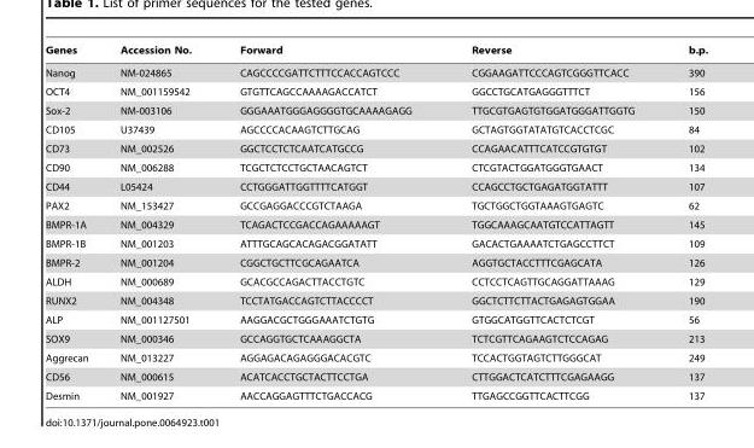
<table><thead><tr><td>Genes</td><td>Accession No.</td><td>Forward</td><td>Reverse</td><td>b.p.</td></tr></thead><tbody><tr><td>Nanog</td><td>NM-024865</td><td>CAGCCCCGATTCTTTCCACCAGTCCC</td><td>CGGAAGATTCCCAGTCGGGTTCACC</td><td>390</td></tr><tr><td>OCT4</td><td>NM_001159542</td><td>GTGTTCAGCCAAAAGACCATCT</td><td>GGCCTGCATGAGGGTTTCT</td><td>156</td></tr><tr><td>Sox-2</td><td>NM-003106</td><td>GGGAAATGGGAGGGGTGCAAAAGAGG</td><td>TTGCGTGAGTGTGGATGGGATTGGTG</td><td>150</td></tr><tr><td>CD105</td><td>U37439</td><td>AGCCCCACAAGTCTTGCAG</td><td>GCTAGTGGTATATGTCACCTCGC</td><td>84</td></tr><tr><td>CD73</td><td>NM_002526</td><td>GGCTCCTCTCAATCATGCCG</td><td>CCAGAACATTTCATCCGTGTGT</td><td>102</td></tr><tr><td>CD90</td><td>NM_006288</td><td>TCGCTCTCCTGCTAACAGTCT</td><td>CTCGTACTGGATGGGTGAACT</td><td>134</td></tr><tr><td>CD44</td><td>L05424</td><td>CCTGGGATTGGTTTTCATGGT</td><td>CCAGCCTGCTGAGATGGTATTT</td><td>107</td></tr><tr><td>PAX2</td><td>NM_153427</td><td>GCCGAGGACCCGTCTAAGA</td><td>TGCTGGCTGGTAAAGTGAGTC</td><td>62</td></tr><tr><td>BMPR-1A</td><td>NM_004329</td><td>TCAGACTCCGACCAGAAAAAGT</td><td>TGGCAAAGCAATGTCCATTAGTT</td><td>145</td></tr><tr><td>BMPR-1B</td><td>NM_001203</td><td>ATTTGCAGCACAGACGGATATT</td><td>GACACTGAAAATCTGAGCCTTCT</td><td>109</td></tr><tr><td>BMPR-2</td><td>NM_001204</td><td>CGGCTGCTTCGCAGAATCA</td><td>AGGTGCTACCTTTCGAGCATA</td><td>126</td></tr><tr><td>ALDH</td><td>NM_000689</td><td>GCACGCCAGACTTACCTGTC</td><td>CCTCCTCAGTTGCAGGATTAAAG</td><td>129</td></tr><tr><td>RUNX2</td><td>NM_004348</td><td>TCCTATGACCAGTCTTACCCCT</td><td>GGCTCTTCTTACTGAGAGTGGAA</td><td>190</td></tr><tr><td>ALP</td><td>NM_001127501</td><td>AAGGACGCTGGGAAATCTGTG</td><td>GTGGCATGGTTCACTCTCGT</td><td>56</td></tr><tr><td>SOX9</td><td>NM_000346</td><td>GCCAGGTGCTCAAAGGCTA</td><td>TCTCGTTCAGAAGTCTCCAGAG</td><td>213</td></tr><tr><td>Aggrecan</td><td>NM_013227</td><td>AGGAGACAGAGGGACACGTC</td><td>TCCACTGGTAGTCTTGGGCAT</td><td>249</td></tr><tr><td>CD56</td><td>NM_000615</td><td>ACATCACCTGCTACTTCCTGA</td><td>CTTGGACTCATCTTTCGAGAAGG</td><td>137</td></tr><tr><td>Desmin</td><td>NM_001927</td><td>AACCAGGAGTTTCTGACCACG</td><td>TTGAGCCGGTTCACTTCGG</td><td>137</td></tr></tbody></table>